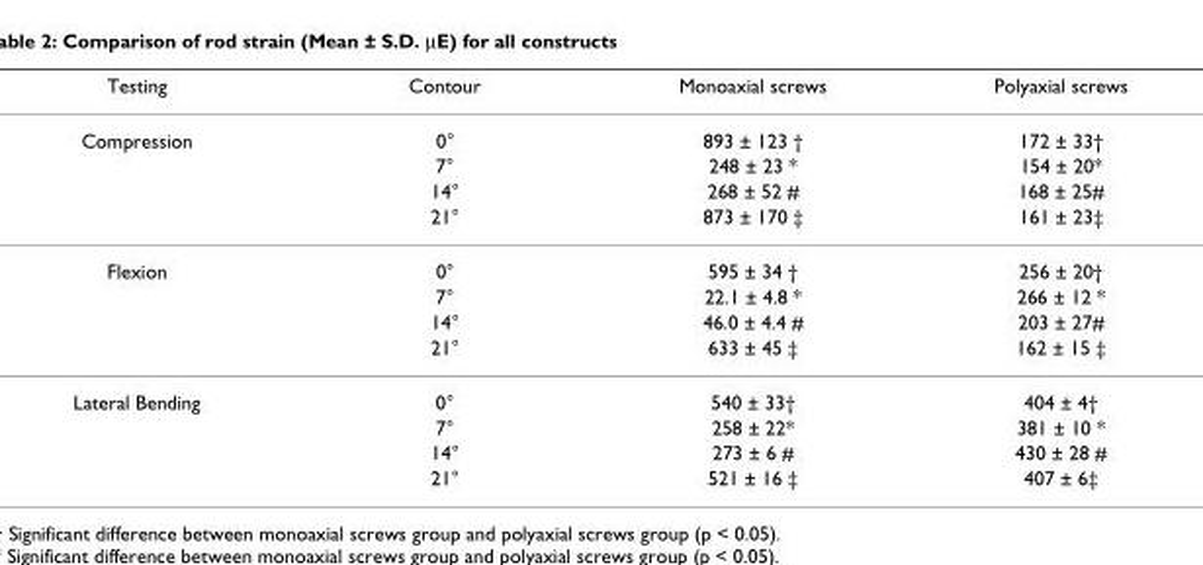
<table><thead><tr><td>Testing</td><td>Contour</td><td>Monoaxial screws</td><td>Polyaxial screws</td></tr></thead><tbody><tr><td rowspan="4">Compression</td><td>0°</td><td>893 ± 123 †</td><td>172 ± 33†</td></tr><tr><td>7°</td><td>248 ± 23 *</td><td>154 ± 20*</td></tr><tr><td>14°</td><td>268 ± 52 #</td><td>168 ± 25#</td></tr><tr><td>21°</td><td>873 ± 170 ‡</td><td>161 ± 23‡</td></tr><tr><td rowspan="4">Flexion</td><td>0°</td><td>595 ± 34 †</td><td>256 ± 20†</td></tr><tr><td>7°</td><td>22.1 ± 4.8 *</td><td>266 ± 12 *</td></tr><tr><td>14°</td><td>46.0 ± 4.4 #</td><td>203 ± 27#</td></tr><tr><td>21°</td><td>633 ± 45 ‡</td><td>162 ± 15 ‡</td></tr><tr><td rowspan="4">Lateral Bending</td><td>0°</td><td>540 ± 33†</td><td>404 ± 4†</td></tr><tr><td>7°</td><td>258 ± 22*</td><td>381 ± 10 *</td></tr><tr><td>14°</td><td>273 ± 6 #</td><td>430 ± 28 #</td></tr><tr><td>21°</td><td>521 ± 16 ‡</td><td>407 ± 6‡</td></tr></tbody></table>